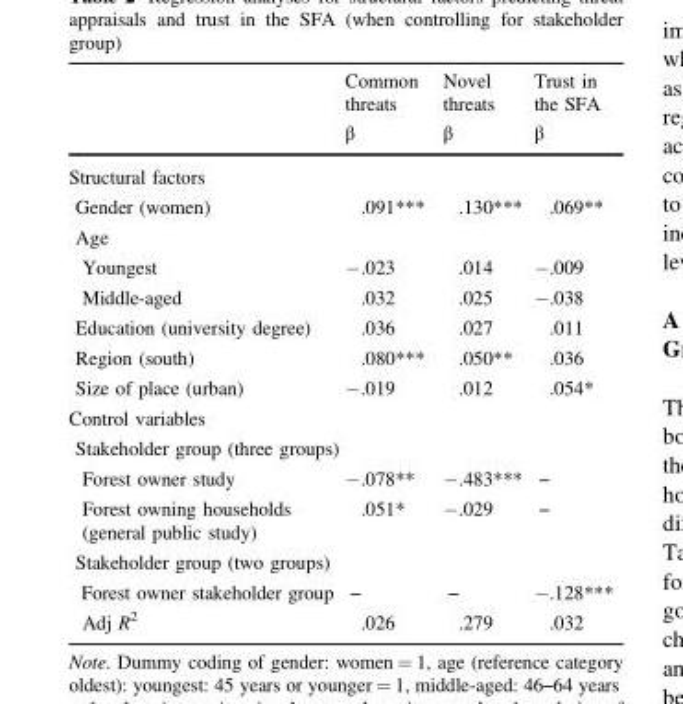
<table><thead><tr><td rowspan="2"></td><td rowspan="2">Common threats β</td><td rowspan="2">Novel threats β</td><td rowspan="2">Trust in the SFA β</td></tr><tr></tr></thead><tbody><tr><td colspan="4">Structural factors</td></tr><tr><td>Gender (women)</td><td>.091***</td><td>.130***</td><td>.069**</td></tr><tr><td colspan="4">Age</td></tr><tr><td>Youngest</td><td>−.023</td><td>.014</td><td>−.009</td></tr><tr><td>Middle-aged</td><td>.032</td><td>.025</td><td>−.038</td></tr><tr><td>Education (university degree)</td><td>.036</td><td>.027</td><td>.011</td></tr><tr><td>Region (south)</td><td>.080***</td><td>.050**</td><td>.036</td></tr><tr><td>Size of place (urban)</td><td>−.019</td><td>.012</td><td>.054*</td></tr><tr><td colspan="4">Control variables</td></tr><tr><td colspan="4">Stakeholder group (three groups)</td></tr><tr><td>Forest owner study</td><td>−.078**</td><td>−.483***</td><td>–</td></tr><tr><td>Forest owning households (general public study)</td><td>.051*</td><td>−.029</td><td>–</td></tr><tr><td colspan="4">Stakeholder group (two groups)</td></tr><tr><td>Forest owner stakeholder group</td><td>–</td><td>–</td><td>−.128***</td></tr><tr><td>Adj R<sup>2</sup></td><td>.026</td><td>.279</td><td>.032</td></tr></tbody></table>